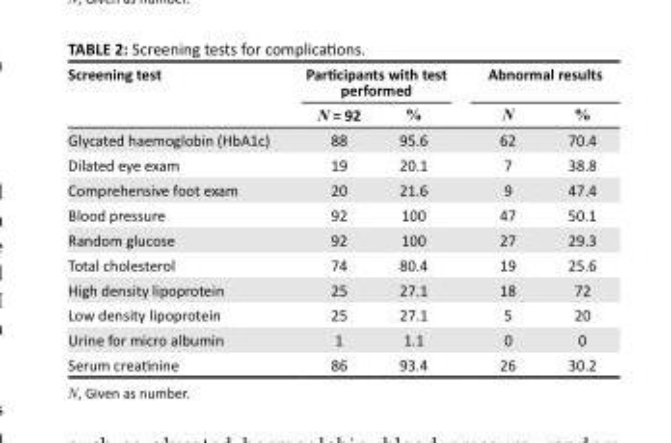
<table><thead><tr><td rowspan="2">Screening test</td><td colspan="2">Participants with test performed</td><td colspan="2">Abnormal results</td></tr><tr><td>N = 92</td><td>%</td><td>N</td><td>%</td></tr></thead><tbody><tr><td>Glycated haemoglobin (HbA<sub>1</sub>c)</td><td>88</td><td>95.6</td><td>62</td><td>70.4</td></tr><tr><td>Dilated eye exam</td><td>19</td><td>20.1</td><td>7</td><td>38.8</td></tr><tr><td>Comprehensive foot exam</td><td>20</td><td>21.6</td><td>9</td><td>47.4</td></tr><tr><td>Blood pressure</td><td>92</td><td>100</td><td>47</td><td>50.1</td></tr><tr><td>Random glucose</td><td>92</td><td>100</td><td>27</td><td>29.3</td></tr><tr><td>Total cholesterol</td><td>74</td><td>80.4</td><td>19</td><td>25.6</td></tr><tr><td>High density lipoprotein</td><td>25</td><td>27.1</td><td>18</td><td>72</td></tr><tr><td>Low density lipoprotein</td><td>25</td><td>27.1</td><td>5</td><td>20</td></tr><tr><td>Urine for micro albumin</td><td>1</td><td>1.1</td><td>0</td><td>0</td></tr><tr><td>Serum creatinine</td><td>86</td><td>93.4</td><td>26</td><td>30.2</td></tr></tbody></table>